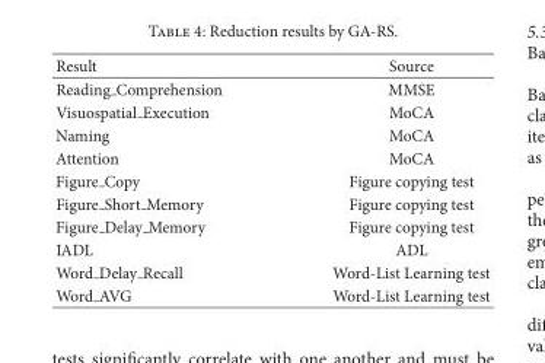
<table><thead><tr><td>Result</td><td>Source</td></tr></thead><tbody><tr><td>Reading Comprehension</td><td>MMSE</td></tr><tr><td>Visuospatial Execution</td><td>MoCA</td></tr><tr><td>Naming</td><td>MoCA</td></tr><tr><td>Attention</td><td>MoCA</td></tr><tr><td>Figure Copy</td><td>Figure copying test</td></tr><tr><td>Figure <sub>Short</sub> Memory</td><td>Figure copying test</td></tr><tr><td>Figure <sub>Delay</sub> Memory</td><td>Figure copying test</td></tr><tr><td>IADL</td><td>ADL</td></tr><tr><td>Word <sub>Delay</sub> Recall</td><td>Word-List Learning test</td></tr><tr><td>Word AVG</td><td>Word-List Learning test</td></tr></tbody></table>